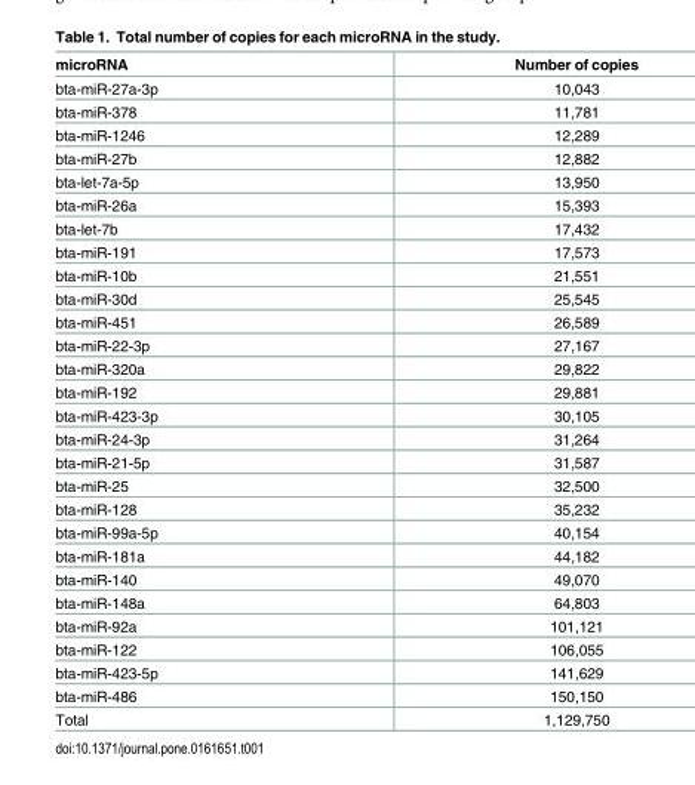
<table><thead><tr><td>microRNA</td><td>Number of copies</td></tr></thead><tbody><tr><td>bta-miR-27a-3p</td><td>10,043</td></tr><tr><td>bta-miR-378</td><td>11,781</td></tr><tr><td>bta-miR-1246</td><td>12,289</td></tr><tr><td>bta-miR-27b</td><td>12,882</td></tr><tr><td>bta-let-7a-5p</td><td>13,950</td></tr><tr><td>bta-miR-26a</td><td>15,393</td></tr><tr><td>bta-let-7b</td><td>17,432</td></tr><tr><td>bta-miR-191</td><td>17,573</td></tr><tr><td>bta-miR-10b</td><td>21,551</td></tr><tr><td>bta-miR-30d</td><td>25,545</td></tr><tr><td>bta-miR-451</td><td>26,589</td></tr><tr><td>bta-miR-22-3p</td><td>27,167</td></tr><tr><td>bta-miR-320a</td><td>29,822</td></tr><tr><td>bta-miR-192</td><td>29,881</td></tr><tr><td>bta-miR-423-3p</td><td>30,105</td></tr><tr><td>bta-miR-24-3p</td><td>31,264</td></tr><tr><td>bta-miR-21-5p</td><td>31,587</td></tr><tr><td>bta-miR-25</td><td>32,500</td></tr><tr><td>bta-miR-128</td><td>35,232</td></tr><tr><td>bta-miR-99a-5p</td><td>40,154</td></tr><tr><td>bta-miR-181a</td><td>44,182</td></tr><tr><td>bta-miR-140</td><td>49,070</td></tr><tr><td>bta-miR-148a</td><td>64,803</td></tr><tr><td>bta-miR-92a</td><td>101,121</td></tr><tr><td>bta-miR-122</td><td>106,055</td></tr><tr><td>bta-miR-423-5p</td><td>141,629</td></tr><tr><td>bta-miR-486</td><td>150,150</td></tr><tr><td>Total</td><td>1,129,750</td></tr></tbody></table>